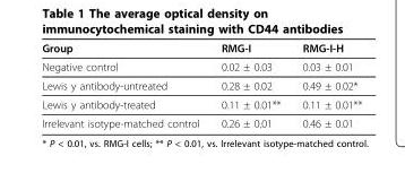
<table><thead><tr><td>Group</td><td>RMG-I</td><td>RMG-I-H</td></tr></thead><tbody><tr><td>Negative control</td><td>0.02 ± 0.03</td><td>0.03 ± 0.01</td></tr><tr><td>Lewis y antibody-untreated</td><td>0.28 ± 0.02</td><td>0.49 ± 0.02*</td></tr><tr><td>Lewis y antibody-treated</td><td>0.11 ± 0.01**</td><td>0.11 ± 0.01**</td></tr><tr><td>Irrelevant isotype-matched control</td><td>0.26 ± 0.01</td><td>0.46 ± 0.01</td></tr></tbody></table>